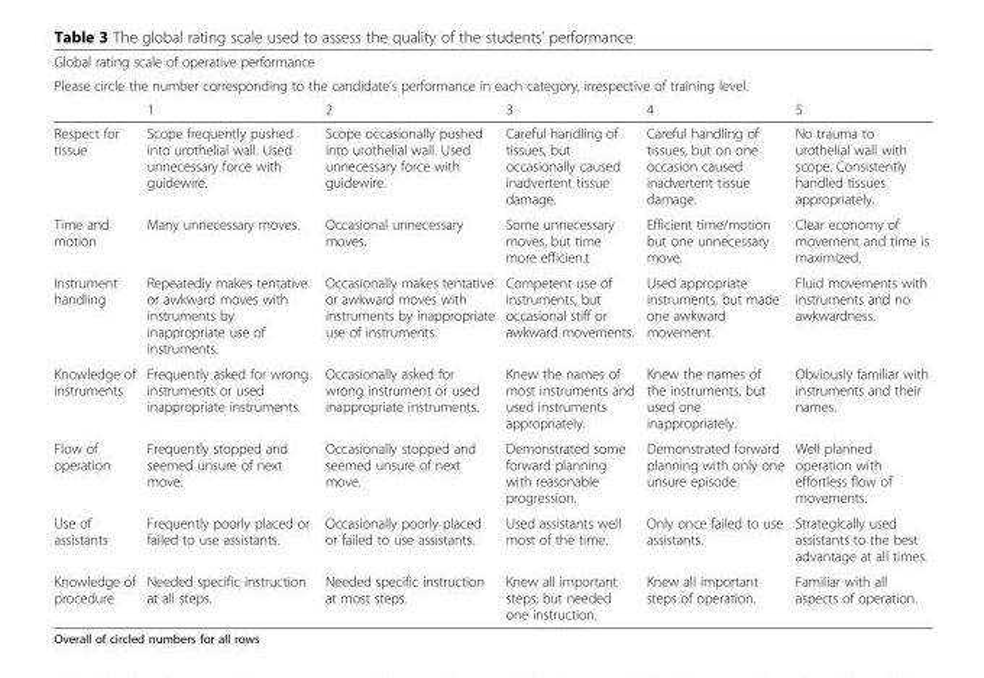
<table><thead><tr><td rowspan="2" colspan="6">Global rating scale of operative performance Please circle the number corresponding to the candidate’s performance in each category, irrespective of training level.</td></tr><tr></tr><tr><td></td><td>1</td><td>2</td><td>3</td><td>4</td><td>5</td></tr></thead><tbody><tr><td>Respect for tissue</td><td>Scope frequently pushed into urothelial wall. Used unnecessary force with guidewire.</td><td>Scope occasionally pushed into urothelial wall. Used unnecessary force with guidewire.</td><td>Careful handling of tissues, but occasionally caused inadvertent tissue damage.</td><td>Careful handling of tissues, but on one occasion caused inadvertent tissue damage.</td><td>No trauma to urothelial wall with scope. Consistently handled tissues appropriately.</td></tr><tr><td>Time and motion</td><td>Many unnecessary moves.</td><td>Occasional unnecessary moves.</td><td>Some unnecessary moves, but time more efficien.t</td><td>Efficient time/motion but one unnecessary move.</td><td>Clear economy of movement and time is maximized.</td></tr><tr><td>Instrument handling</td><td>Repeatedly makes tentative or awkward moves with instruments by inappropriate use of instruments.</td><td>Occasionally makes tentative or awkward moves with instruments by inappropriate use of instruments.</td><td>Competent use of instruments, but occasional stiff or awkward movements.</td><td>Used appropriate instruments, but made one awkward movement.</td><td>Fluid movements with instruments and no awkwardness.</td></tr><tr><td>Knowledge of instruments</td><td>Frequently asked for wrong instruments or used inappropriate instruments.</td><td>Occasionally asked for wrong instrument or used inappropriate instruments.</td><td>Knew the names of most instruments and used instruments appropriately.</td><td>Knew the names of the instruments, but used one inappropriately.</td><td>Obviously familiar with instruments and their names.</td></tr><tr><td>Flow of operation</td><td>Frequently stopped and seemed unsure of next move.</td><td>Occasionally stopped and seemed unsure of next move.</td><td>Demonstrated some forward planning with reasonable progression.</td><td>Demonstrated forward planning with only one unsure episode.</td><td>Well planned operation with effortless flow of movements.</td></tr><tr><td>Use of assistants</td><td>Frequently poorly placed or failed to use assistants.</td><td>Occasionally poorly placed or failed to use assistants.</td><td>Used assistants well most of the time.</td><td>Only once failed to use assistants.</td><td>Strategically used assistants to the best advantage at all times.</td></tr><tr><td>Knowledge of procedure</td><td>Needed specific instruction at all steps.</td><td>Needed specific instruction at most steps.</td><td>Knew all important steps, but needed one instruction.</td><td>Knew all important steps of operation.</td><td>Familiar with all aspects of operation.</td></tr></tbody></table>